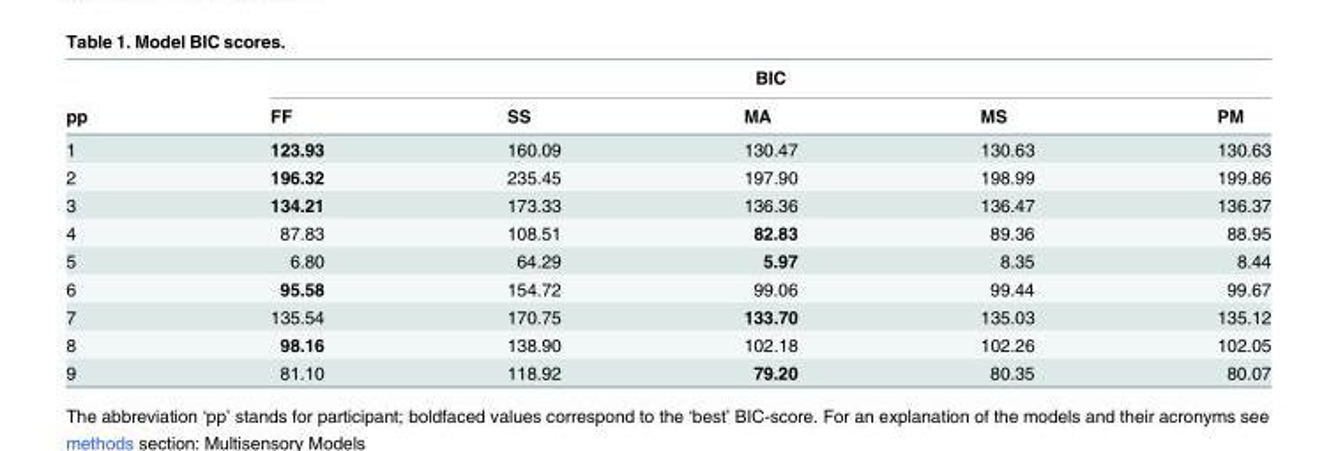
<table><thead><tr><td rowspan="2">pp</td><td colspan="5">BIC</td></tr><tr><td>FF</td><td>SS</td><td>MA</td><td>MS</td><td>PM</td></tr></thead><tbody><tr><td>1</td><td>123.93</td><td>160.09</td><td>130.47</td><td>130.63</td><td>130.63</td></tr><tr><td>2</td><td>196.32</td><td>235.45</td><td>197.90</td><td>198.99</td><td>199.86</td></tr><tr><td>3</td><td>134.21</td><td>173.33</td><td>136.36</td><td>136.47</td><td>136.37</td></tr><tr><td>4</td><td>87.83</td><td>108.51</td><td>82.83</td><td>89.36</td><td>88.95</td></tr><tr><td>5</td><td>6.80</td><td>64.29</td><td>5.97</td><td>8.35</td><td>8.44</td></tr><tr><td>6</td><td>95.58</td><td>154.72</td><td>99.06</td><td>99.44</td><td>99.67</td></tr><tr><td>7</td><td>135.54</td><td>170.75</td><td>133.70</td><td>135.03</td><td>135.12</td></tr><tr><td>8</td><td>98.16</td><td>138.90</td><td>102.18</td><td>102.26</td><td>102.05</td></tr><tr><td>9</td><td>81.10</td><td>118.92</td><td>79.20</td><td>80.35</td><td>80.07</td></tr></tbody></table>